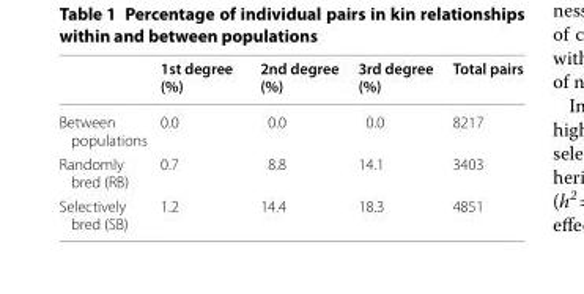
<table><thead><tr><td></td><td>1st degree (%)</td><td>2nd degree (%)</td><td>3rd degree (%)</td><td>Total pairs</td></tr></thead><tbody><tr><td>Between populations</td><td>0.0</td><td>0.0</td><td>0.0</td><td>8217</td></tr><tr><td>Randomly bred (RB)</td><td>0.7</td><td>8.8</td><td>14.1</td><td>3403</td></tr><tr><td>Selectively bred (SB)</td><td>1.2</td><td>14.4</td><td>18.3</td><td>4851</td></tr></tbody></table>